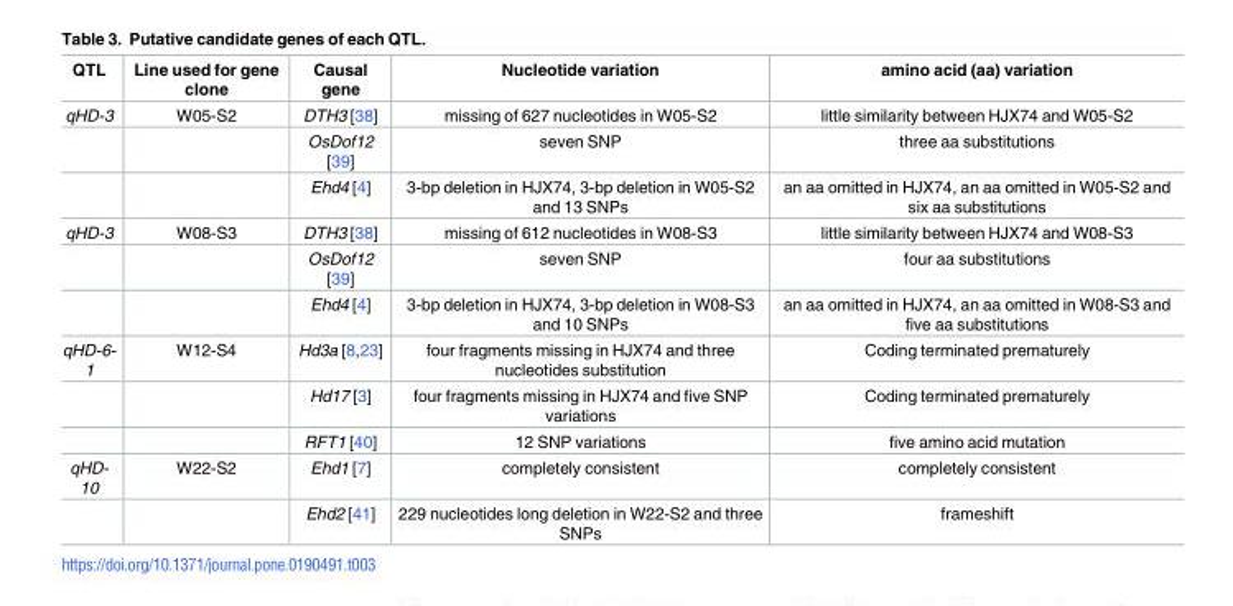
<table><thead><tr><td>QTL</td><td>Line used for gene clone</td><td>Causal gene</td><td>Nucleotide variation</td><td>amino acid (aa) variation</td></tr></thead><tbody><tr><td rowspan="3">qHD-3</td><td>W05-S2</td><td>DTH3 [38]</td><td>missing of 627 nucleotides in W05-S2</td><td>little similarity between HJX74 and W05-S2</td></tr><tr><td></td><td>OsDof12 [39]</td><td>seven SNP</td><td>three aa substitutions</td></tr><tr><td></td><td>Ehd4 [4]</td><td>3-bp deletion in HJX74, 3-bp deletion in W05-S2 and 13 SNPs</td><td>an aa omitted in HJX74, an aa omitted in W05-S2 and six aa substitutions</td></tr><tr><td rowspan="3">qHD-3</td><td>W08-S3</td><td>DTH3 [38]</td><td>missing of 612 nucleotides in W08-S3</td><td>little similarity between HJX74 and W08-S3</td></tr><tr><td></td><td>OsDof12 [39]</td><td>seven SNP</td><td>four aa substitutions</td></tr><tr><td></td><td>Ehd4 [4]</td><td>3-bp deletion in HJX74, 3-bp deletion in W08-S3 and 10 SNPs</td><td>an aa omitted in HJX74, an aa omitted in W08-S3 and five aa substitutions</td></tr><tr><td rowspan="3">qHD-6- 1</td><td>W12-S4</td><td>Hd3a [8,23]</td><td>four fragments missing in HJX74 and three nucleotides substitution</td><td>Coding terminated prematurely</td></tr><tr><td></td><td>Hd17 [3]</td><td>four fragments missing in HJX74 and five SNP variations</td><td>Coding terminated prematurely</td></tr><tr><td></td><td>RFT1 [40]</td><td>12 SNP variations</td><td>five amino acid mutation</td></tr><tr><td rowspan="2">qHD- 10</td><td>W22-S2</td><td>Ehd1 [7]</td><td>completely consistent</td><td>completely consistent</td></tr><tr><td></td><td>Ehd2 [41]</td><td>229 nucleotides long deletion in W22-S2 and three SNPs</td><td>frameshift</td></tr></tbody></table>